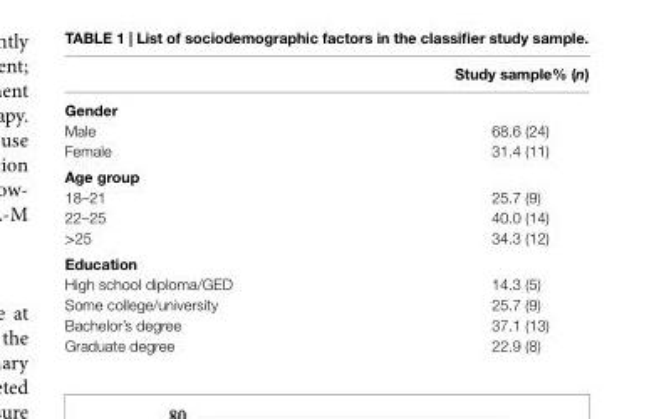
<table><thead><tr><td></td><td>study sample% (n)</td></tr></thead><tbody><tr><td colspan="2">gender</td></tr><tr><td>Male</td><td>68.6 (24)</td></tr><tr><td>Female</td><td>31.4 (11)</td></tr><tr><td colspan="2">age group</td></tr><tr><td>18–21</td><td>25.7 (9)</td></tr><tr><td>22–25</td><td>40.0 (14)</td></tr><tr><td>&gt;25</td><td>34.3 (12)</td></tr><tr><td colspan="2">education</td></tr><tr><td>High school diploma/GED</td><td>14.3 (5)</td></tr><tr><td>Some college/university</td><td>25.7 (9)</td></tr><tr><td>Bachelor’s degree</td><td>37.1 (13)</td></tr><tr><td>Graduate degree</td><td>22.9 (8)</td></tr></tbody></table>